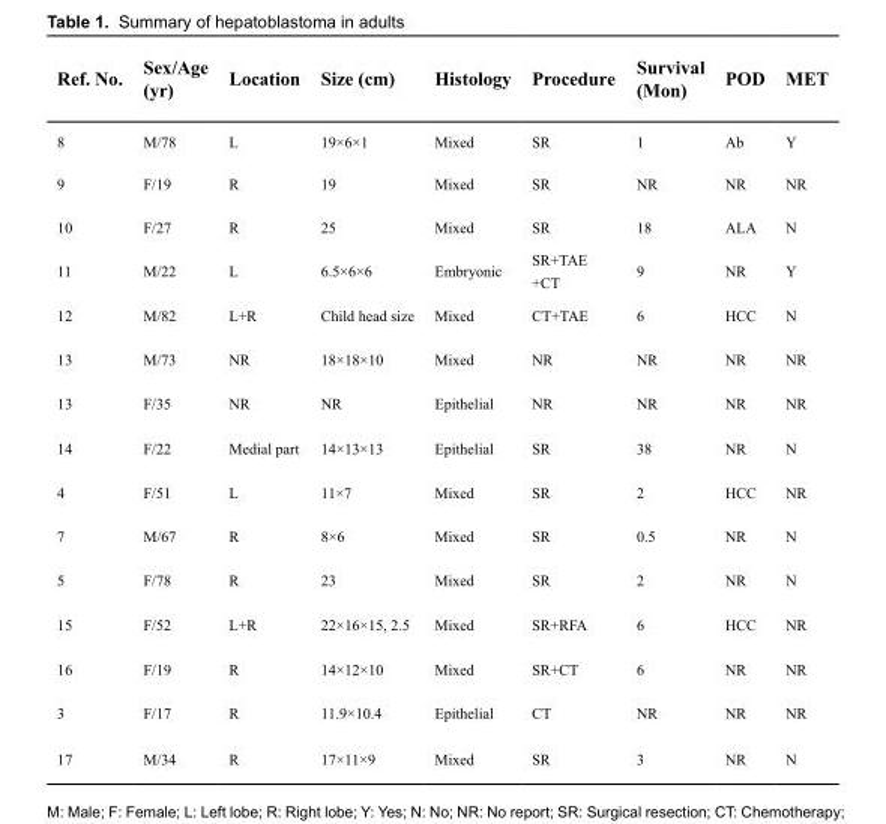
<table><thead><tr><td>Ref. No.</td><td>Sex/Age (yr)</td><td>Location</td><td>Size (cm)</td><td>Histology</td><td>Procedure</td><td>Survival (Mon)</td><td>POD</td><td>MET</td></tr></thead><tbody><tr><td>8</td><td>M/78</td><td>L</td><td>19×6×1</td><td>Mixed</td><td>SR</td><td>1</td><td>Ab</td><td>Y</td></tr><tr><td>9</td><td>F/19</td><td>R</td><td>19</td><td>Mixed</td><td>SR</td><td>NR</td><td>NR</td><td>NR</td></tr><tr><td>10</td><td>F/27</td><td>R</td><td>25</td><td>Mixed</td><td>SR</td><td>18</td><td>ALA</td><td>N</td></tr><tr><td>11</td><td>M/22</td><td>L</td><td>6.5×6×6</td><td>Embryonic</td><td>SR+TAE +CT</td><td>9</td><td>NR</td><td>Y</td></tr><tr><td>12</td><td>M/82</td><td>L+R</td><td>Child head size</td><td>Mixed</td><td>CT+TAE</td><td>6</td><td>HCC</td><td>N</td></tr><tr><td>13</td><td>M/73</td><td>NR</td><td>18×18×10</td><td>Mixed</td><td>NR</td><td>NR</td><td>NR</td><td>NR</td></tr><tr><td>13</td><td>F/35</td><td>NR</td><td>NR</td><td>Epithelial</td><td>NR</td><td>NR</td><td>NR</td><td>NR</td></tr><tr><td>14</td><td>F/22</td><td>Medial part</td><td>14×13×13</td><td>Epithelial</td><td>SR</td><td>38</td><td>NR</td><td>N</td></tr><tr><td>4</td><td>F/51</td><td>L</td><td>11×7</td><td>Mixed</td><td>SR</td><td>2</td><td>HCC</td><td>NR</td></tr><tr><td>7</td><td>M/67</td><td>R</td><td>8×6</td><td>Mixed</td><td>SR</td><td>0.5</td><td>NR</td><td>N</td></tr><tr><td>5</td><td>F/78</td><td>R</td><td>23</td><td>Mixed</td><td>SR</td><td>2</td><td>NR</td><td>N</td></tr><tr><td>15</td><td>F/52</td><td>L+R</td><td>22×16×15, 2.5</td><td>Mixed</td><td>SR+RFA</td><td>6</td><td>HCC</td><td>NR</td></tr><tr><td>16</td><td>F/19</td><td>R</td><td>14×12×10</td><td>Mixed</td><td>SR+CT</td><td>6</td><td>NR</td><td>NR</td></tr><tr><td>3</td><td>F/17</td><td>R</td><td>11.9×10.4</td><td>Epithelial</td><td>CT</td><td>NR</td><td>NR</td><td>NR</td></tr><tr><td>17</td><td>M/34</td><td>R</td><td>17×11×9</td><td>Mixed</td><td>SR</td><td>3</td><td>NR</td><td>N</td></tr></tbody></table>